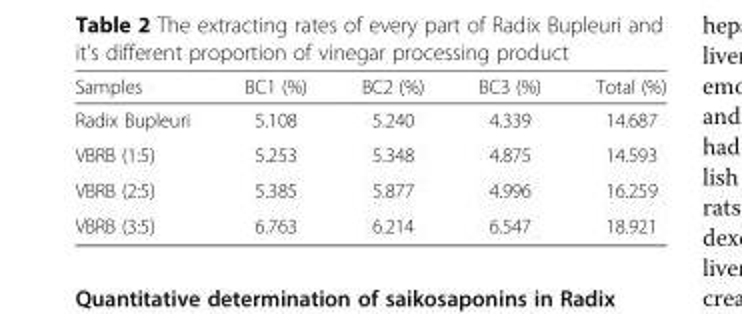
<table><thead><tr><td>Samples</td><td>BC1 (%)</td><td>BC2 (%)</td><td>BC3 (%)</td><td>Total (%)</td></tr></thead><tbody><tr><td>Radix Bupleuri</td><td>5.108</td><td>5.240</td><td>4.339</td><td>14.687</td></tr><tr><td>VBRB (1:5)</td><td>5.253</td><td>5.348</td><td>4.875</td><td>14.593</td></tr><tr><td>VBRB (2:5)</td><td>5.385</td><td>5.877</td><td>4.996</td><td>16.259</td></tr><tr><td>VBRB (3:5)</td><td>6.763</td><td>6.214</td><td>6.547</td><td>18.921</td></tr></tbody></table>